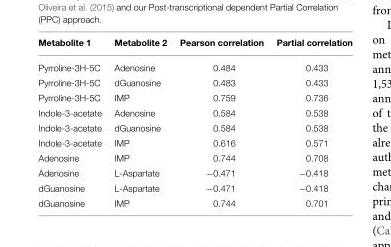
<table><thead><tr><td>Metabolite 1</td><td>Metabolite 2</td><td>Pearson correlation</td><td>Partial correlation</td></tr></thead><tbody><tr><td>Pyrroline-3H-5C</td><td>Adenosine</td><td>0.484</td><td>0.433</td></tr><tr><td>Pyrroline-3H-5C</td><td>dGuanosine</td><td>0.483</td><td>0.433</td></tr><tr><td>Pyrroline-3H-5C</td><td>IMP</td><td>0.759</td><td>0.736</td></tr><tr><td>Indole-3-acetate</td><td>Adenosine</td><td>0.584</td><td>0.538</td></tr><tr><td>Indole-3-acetate</td><td>dGuanosine</td><td>0.584</td><td>0.538</td></tr><tr><td>Indole-3-acetate</td><td>IMP</td><td>0.616</td><td>0.571</td></tr><tr><td>Adenosine</td><td>IMP</td><td>0.744</td><td>0.708</td></tr><tr><td>Adenosine</td><td>L-Aspartate</td><td>−0.471</td><td>−0.418</td></tr><tr><td>dGuanosine</td><td>L-Aspartate</td><td>−0.471</td><td>−0.418</td></tr><tr><td>dGuanosine</td><td>IMP</td><td>0.744</td><td>0.701</td></tr></tbody></table>